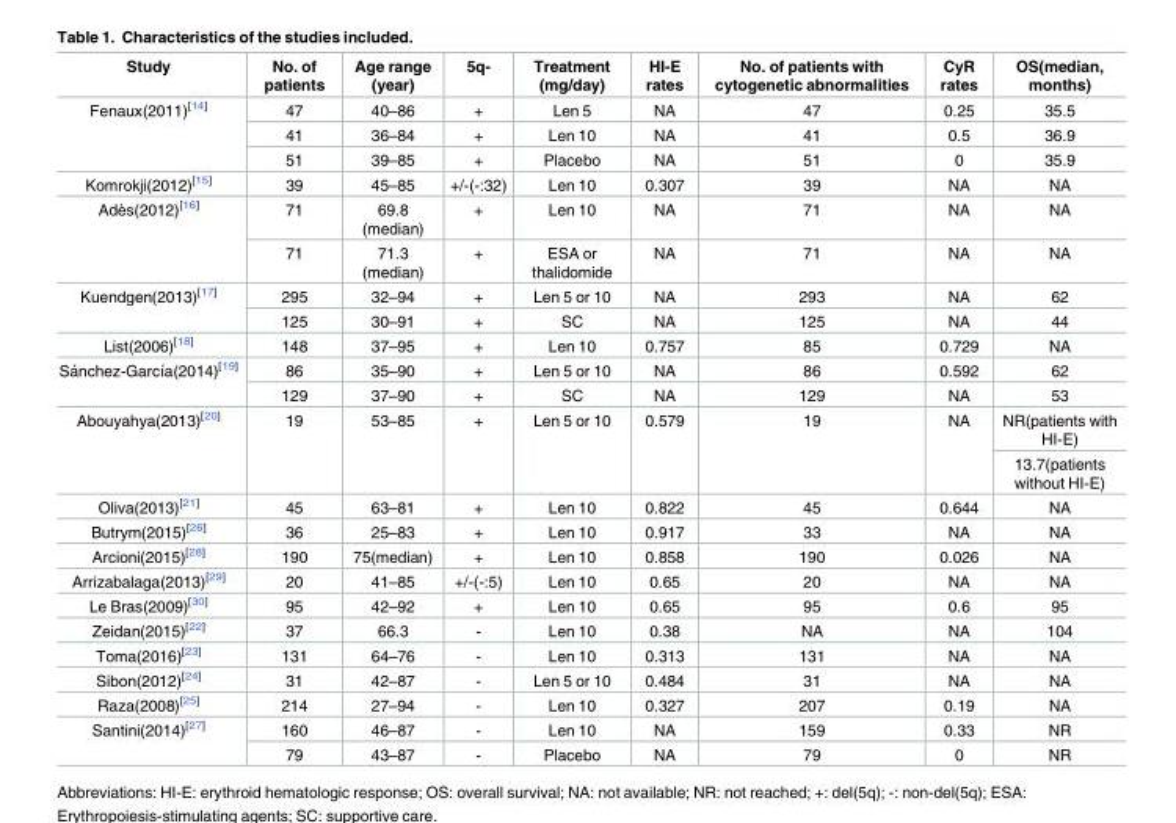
<table><thead><tr><td>Study</td><td>No. of patients</td><td>Age range (year)</td><td>5q-</td><td>Treatment (mg/day)</td><td>HI-E rates</td><td>No. of patients with cytogenetic abnormalities</td><td>CyR rates</td><td>OS(median, months)</td></tr></thead><tbody><tr><td rowspan="3">Fenaux(2011)<sup>[14]</sup></td><td>47</td><td>40–86</td><td>+</td><td>Len 5</td><td>NA</td><td>47</td><td>0.25</td><td>35.5</td></tr><tr><td>41</td><td>36–84</td><td>+</td><td>Len 10</td><td>NA</td><td>41</td><td>0.5</td><td>36.9</td></tr><tr><td>51</td><td>39–85</td><td>+</td><td>Placebo</td><td>NA</td><td>51</td><td>0</td><td>35.9</td></tr><tr><td>Komrokji(2012)<sup>[15]</sup></td><td>39</td><td>45–85</td><td>+/-(-:32)</td><td>Len 10</td><td>0.307</td><td>39</td><td>NA</td><td>NA</td></tr><tr><td rowspan="2">Adès(2012)<sup>[16]</sup></td><td>71</td><td>69.8 (median)</td><td>+</td><td>Len 10</td><td>NA</td><td>71</td><td>NA</td><td>NA</td></tr><tr><td>71</td><td>71.3 (median)</td><td>+</td><td>ESA or thalidomide</td><td>NA</td><td>71</td><td>NA</td><td>NA</td></tr><tr><td rowspan="2">Kuendgen(2013)<sup>[17]</sup></td><td>295</td><td>32–94</td><td>+</td><td>Len 5 or 10</td><td>NA</td><td>293</td><td>NA</td><td>62</td></tr><tr><td>125</td><td>30–91</td><td>+</td><td>SC</td><td>NA</td><td>125</td><td>NA</td><td>44</td></tr><tr><td>List(2006)<sup>[18]</sup></td><td>148</td><td>37–95</td><td>+</td><td>Len 10</td><td>0.757</td><td>85</td><td>0.729</td><td>NA</td></tr><tr><td rowspan="2">Sa´nchez-Garcı´a(2014)[19]</td><td>86</td><td>35–90</td><td>+</td><td>Len 5 or 10</td><td>NA</td><td>86</td><td>0.592</td><td>62</td></tr><tr><td>129</td><td>37–90</td><td>+</td><td>SC</td><td>NA</td><td>129</td><td>NA</td><td>53</td></tr><tr><td rowspan="2">Abouyahya(2013)<sup>[20]</sup></td><td rowspan="2">19</td><td rowspan="2">53–85</td><td rowspan="2">+</td><td rowspan="2">Len 5 or 10</td><td rowspan="2">0.579</td><td rowspan="2">19</td><td rowspan="2">NA</td><td>NR(patients with HI-E)</td></tr><tr><td>13.7(patients without HI-E)</td></tr><tr><td>Oliva(2013)<sup>[21]</sup></td><td>45</td><td>63–81</td><td>+</td><td>Len 10</td><td>0.822</td><td>45</td><td>0.644</td><td>NA</td></tr><tr><td>Butrym(2015)<sup>[26]</sup></td><td>36</td><td>25–83</td><td>+</td><td>Len 10</td><td>0.917</td><td>33</td><td>NA</td><td>NA</td></tr><tr><td>Arcioni(2015)<sup>[28]</sup></td><td>190</td><td>75(median)</td><td>+</td><td>Len 10</td><td>0.858</td><td>190</td><td>0.026</td><td>NA</td></tr><tr><td>Arrizabalaga(2013)<sup>[29]</sup></td><td>20</td><td>41–85</td><td>+/-(-:5)</td><td>Len 10</td><td>0.65</td><td>20</td><td>NA</td><td>NA</td></tr><tr><td>Le Bras(2009)<sup>[30]</sup></td><td>95</td><td>42–92</td><td>+</td><td>Len 10</td><td>0.65</td><td>95</td><td>0.6</td><td>95</td></tr><tr><td>Zeidan(2015)<sup>[22]</sup></td><td>37</td><td>66.3</td><td>-</td><td>Len 10</td><td>0.38</td><td>NA</td><td>NA</td><td>104</td></tr><tr><td>Toma(2016)<sup>[23]</sup></td><td>131</td><td>64–76</td><td>-</td><td>Len 10</td><td>0.313</td><td>131</td><td>NA</td><td>NA</td></tr><tr><td>Sibon(2012)<sup>[24]</sup></td><td>31</td><td>42–87</td><td>-</td><td>Len 5 or 10</td><td>0.484</td><td>31</td><td>NA</td><td>NA</td></tr><tr><td>Raza(2008)<sup>[25]</sup></td><td>214</td><td>27–94</td><td>-</td><td>Len 10</td><td>0.327</td><td>207</td><td>0.19</td><td>NA</td></tr><tr><td rowspan="2">Santini(2014)<sup>[27]</sup></td><td>160</td><td>46–87</td><td>-</td><td>Len 10</td><td>NA</td><td>159</td><td>0.33</td><td>NR</td></tr><tr><td>79</td><td>43–87</td><td>-</td><td>Placebo</td><td>NA</td><td>79</td><td>0</td><td>NR</td></tr></tbody></table>